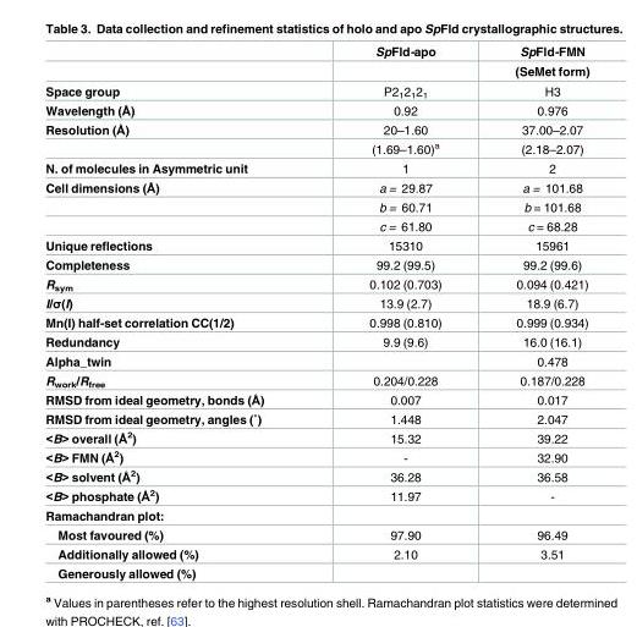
<table><thead><tr><td rowspan="2"></td><td rowspan="2">SpFld-apo</td><td rowspan="2">SpFld-FMN (SeMet form)</td></tr><tr></tr></thead><tbody><tr><td>Space group</td><td>P2<sub>1</sub>2<sub>1</sub>2<sub>1</sub></td><td>H3</td></tr><tr><td>Wavelength (Å)</td><td>0.92</td><td>0.976</td></tr><tr><td rowspan="2">Resolution (Å)</td><td>20–1.60</td><td>37.00–2.07</td></tr><tr><td>(1.69–1.60)<sup>a</sup></td><td>(2.18–2.07)</td></tr><tr><td>N. of molecules in Asymmetric unit</td><td>1</td><td>2</td></tr><tr><td rowspan="3">Cell dimensions (Å)</td><td>a = 29.87</td><td>a = 101.68</td></tr><tr><td>b = 60.71</td><td>b = 101.68</td></tr><tr><td>c = 61.80</td><td>c = 68.28</td></tr><tr><td>Unique reflections</td><td>15310</td><td>15961</td></tr><tr><td>Completeness</td><td>99.2 (99.5)</td><td>99.2 (99.6)</td></tr><tr><td>R<sub>sym</sub></td><td>0.102 (0.703)</td><td>0.094 (0.421)</td></tr><tr><td>I/σ(I)</td><td>13.9 (2.7)</td><td>18.9 (6.7)</td></tr><tr><td>Mn(I) half-set correlation CC(1/2)</td><td>0.998 (0.810)</td><td>0.999 (0.934)</td></tr><tr><td>Redundancy</td><td>9.9 (9.6)</td><td>16.0 (16.1)</td></tr><tr><td>Alpha_twin</td><td></td><td>0.478</td></tr><tr><td>R<sub>work</sub>/R<sub>free</sub></td><td>0.204/0.228</td><td>0.187/0.228</td></tr><tr><td>RMSD from ideal geometry, bonds (Å)</td><td>0.007</td><td>0.017</td></tr><tr><td>RMSD from ideal geometry, angles (˚)</td><td>1.448</td><td>2.047</td></tr><tr><td>&lt;B&gt; overall (Å<sup>2</sup>)</td><td>15.32</td><td>39.22</td></tr><tr><td>&lt;B&gt; FMN (Å<sup>2</sup>)</td><td>-</td><td>32.90</td></tr><tr><td>&lt;B&gt; solvent (Å<sup>2</sup>)</td><td>36.28</td><td>36.58</td></tr><tr><td>&lt;B&gt; phosphate (Å<sup>2</sup>)</td><td>11.97</td><td>-</td></tr><tr><td colspan="3">Ramachandran plot:</td></tr><tr><td>Most favoured (%)</td><td>97.90</td><td>96.49</td></tr><tr><td>Additionally allowed (%)</td><td>2.10</td><td>3.51</td></tr><tr><td>Generously allowed (%)</td><td></td><td></td></tr></tbody></table>